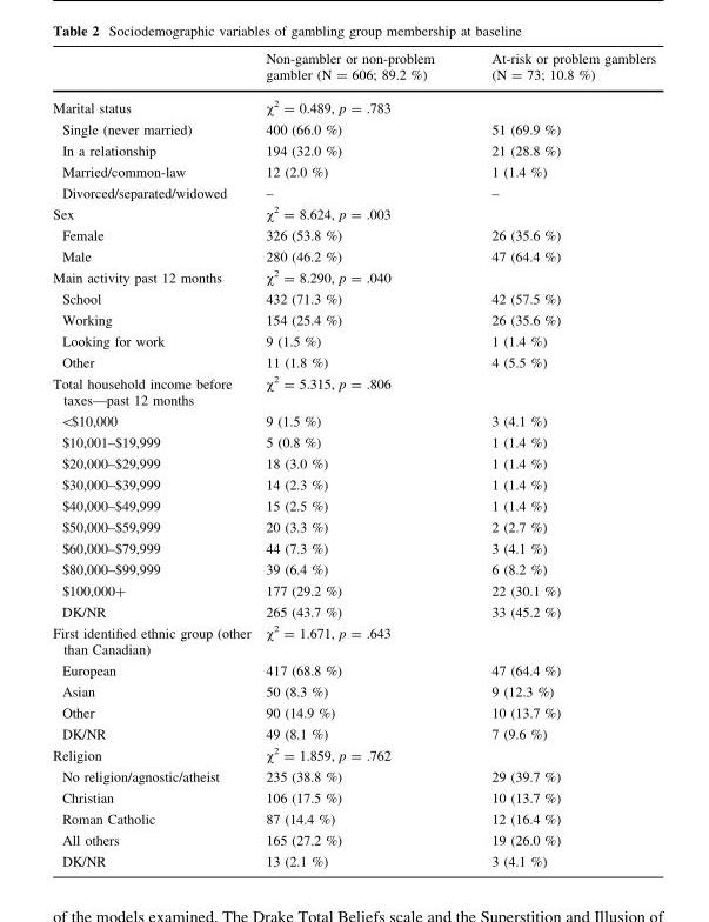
<table><thead><tr><td></td><td>Non-gambler or non-problem gambler (N = 606; 89.2 %)</td><td>At-risk or problem gamblers (N = 73; 10.8 %)</td></tr></thead><tbody><tr><td>Marital status</td><td colspan="2">χ<sup>2</sup> = 0.489, p = .783</td></tr><tr><td>Single (never married)</td><td>400 (66.0 %)</td><td>51 (69.9 %)</td></tr><tr><td>In a relationship</td><td>194 (32.0 %)</td><td>21 (28.8 %)</td></tr><tr><td>Married/common-law</td><td>12 (2.0 %)</td><td>1 (1.4 %)</td></tr><tr><td>Divorced/separated/widowed</td><td>–</td><td>–</td></tr><tr><td>Sex</td><td colspan="2">χ<sup>2</sup> = 8.624, p = .003</td></tr><tr><td>Female</td><td>326 (53.8 %)</td><td>26 (35.6 %)</td></tr><tr><td>Male</td><td>280 (46.2 %)</td><td>47 (64.4 %)</td></tr><tr><td>Main activity past 12 months</td><td colspan="2">χ<sup>2</sup> = 8.290, p = .040</td></tr><tr><td>School</td><td>432 (71.3 %)</td><td>42 (57.5 %)</td></tr><tr><td>Working</td><td>154 (25.4 %)</td><td>26 (35.6 %)</td></tr><tr><td>Looking for work</td><td>9 (1.5 %)</td><td>1 (1.4 %)</td></tr><tr><td>Other</td><td>11 (1.8 %)</td><td>4 (5.5 %)</td></tr><tr><td>Total household income before taxes—past 12 months</td><td colspan="2">χ<sup>2</sup> = 5.315, p = .806</td></tr><tr><td>&lt;$10,000</td><td>9 (1.5 %)</td><td>3 (4.1 %)</td></tr><tr><td>$10,001–$19,999</td><td>5 (0.8 %)</td><td>1 (1.4 %)</td></tr><tr><td>$20,000–$29,999</td><td>18 (3.0 %)</td><td>1 (1.4 %)</td></tr><tr><td>$30,000–$39,999</td><td>14 (2.3 %)</td><td>1 (1.4 %)</td></tr><tr><td>$40,000–$49,999</td><td>15 (2.5 %)</td><td>1 (1.4 %)</td></tr><tr><td>$50,000–$59,999</td><td>20 (3.3 %)</td><td>2 (2.7 %)</td></tr><tr><td>$60,000–$79,999</td><td>44 (7.3 %)</td><td>3 (4.1 %)</td></tr><tr><td>$80,000–$99,999</td><td>39 (6.4 %)</td><td>6 (8.2 %)</td></tr><tr><td>$100,000+</td><td>177 (29.2 %)</td><td>22 (30.1 %)</td></tr><tr><td>DK/NR</td><td>265 (43.7 %)</td><td>33 (45.2 %)</td></tr><tr><td>First identified ethnic group (other than Canadian)</td><td colspan="2">χ<sup>2</sup> = 1.671, p = .643</td></tr><tr><td>European</td><td>417 (68.8 %)</td><td>47 (64.4 %)</td></tr><tr><td>Asian</td><td>50 (8.3 %)</td><td>9 (12.3 %)</td></tr><tr><td>Other</td><td>90 (14.9 %)</td><td>10 (13.7 %)</td></tr><tr><td>DK/NR</td><td>49 (8.1 %)</td><td>7 (9.6 %)</td></tr><tr><td>Religion</td><td colspan="2">χ<sup>2</sup> = 1.859, p = .762</td></tr><tr><td>No religion/agnostic/atheist</td><td>235 (38.8 %)</td><td>29 (39.7 %)</td></tr><tr><td>Christian</td><td>106 (17.5 %)</td><td>10 (13.7 %)</td></tr><tr><td>Roman Catholic</td><td>87 (14.4 %)</td><td>12 (16.4 %)</td></tr><tr><td>All others</td><td>165 (27.2 %)</td><td>19 (26.0 %)</td></tr><tr><td>DK/NR</td><td>13 (2.1 %)</td><td>3 (4.1 %)</td></tr></tbody></table>